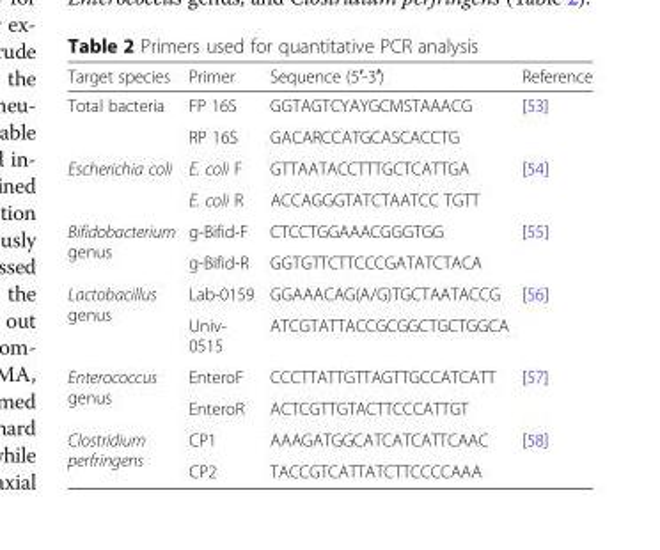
<table><thead><tr><td>Target species</td><td>Primer</td><td>Sequence (5′-3′)</td><td>Reference</td></tr></thead><tbody><tr><td rowspan="2">Total bacteria</td><td>FP 16S</td><td>GGTAGTCYAYGCMSTAAACG</td><td>[53]</td></tr><tr><td>RP 16S</td><td>GACARCCATGCASCACCTG</td><td></td></tr><tr><td rowspan="2">Escherichia coli</td><td>E. coli F</td><td>GTTAATACCTTTGCTCATTGA</td><td>[54]</td></tr><tr><td>E. coli R</td><td>ACCAGGGTATCTAATCC TGTT</td><td></td></tr><tr><td rowspan="2">Bifidobacterium genus</td><td>g-Bifid-F</td><td>CTCCTGGAAACGGGTGG</td><td>[55]</td></tr><tr><td>g-Bifid-R</td><td>GGTGTTCTTCCCGATATCTACA</td><td></td></tr><tr><td rowspan="2">Lactobacillus genus</td><td>Lab-0159</td><td>GGAAACAG(A/G)TGCTAATACCG</td><td>[56]</td></tr><tr><td>Univ- 0515</td><td>ATCGTATTACCGCGGCTGCTGGCA</td><td></td></tr><tr><td rowspan="2">Enterococcus genus</td><td>EnteroF</td><td>CCCTTATTGTTAGTTGCCATCATT</td><td>[57]</td></tr><tr><td>EnteroR</td><td>ACTCGTTGTACTTCCCATTGT</td><td></td></tr><tr><td rowspan="2">Clostridium perfringens</td><td>CP1</td><td>AAAGATGGCATCATCATTCAAC</td><td>[58]</td></tr><tr><td>CP2</td><td>TACCGTCATTATCTTCCCCAAA</td><td></td></tr></tbody></table>